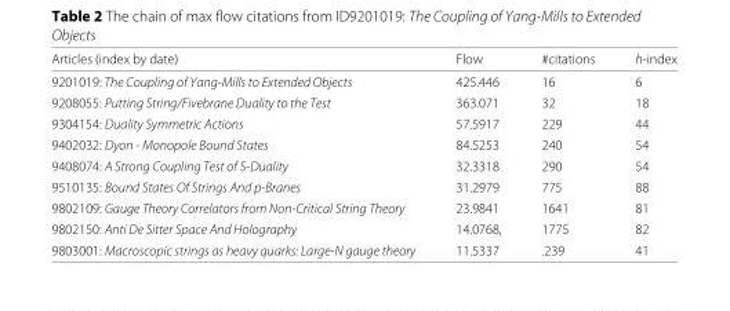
<table><thead><tr><td>Articles (index by date)</td><td>Flow</td><td>#citations</td><td>h-index</td></tr></thead><tbody><tr><td>9201019: The Coupling of Yang-Mills to Extended Objects</td><td>425.446</td><td>16</td><td>6</td></tr><tr><td>9208055: Putting String/Fivebrane Duality to the Test</td><td>363.071</td><td>32</td><td>18</td></tr><tr><td>9304154: Duality Symmetric Actions</td><td>57.5917</td><td>229</td><td>44</td></tr><tr><td>9402032: Dyon - Monopole Bound States</td><td>84.5253</td><td>240</td><td>54</td></tr><tr><td>9408074: A Strong Coupling Test of S-Duality</td><td>32.3318</td><td>290</td><td>54</td></tr><tr><td>9510135: Bound States Of Strings And p-Branes</td><td>31.2979</td><td>775</td><td>88</td></tr><tr><td>9802109: Gauge Theory Correlators from Non-Critical String Theory</td><td>23.9841</td><td>1641</td><td>81</td></tr><tr><td>9802150: Anti De Sitter Space And Holography</td><td>14.0768,</td><td>1775</td><td>82</td></tr><tr><td>9803001: Macroscopic strings as heavy quarks: Large-N gauge theory</td><td>11.5337</td><td>.239</td><td>41</td></tr></tbody></table>